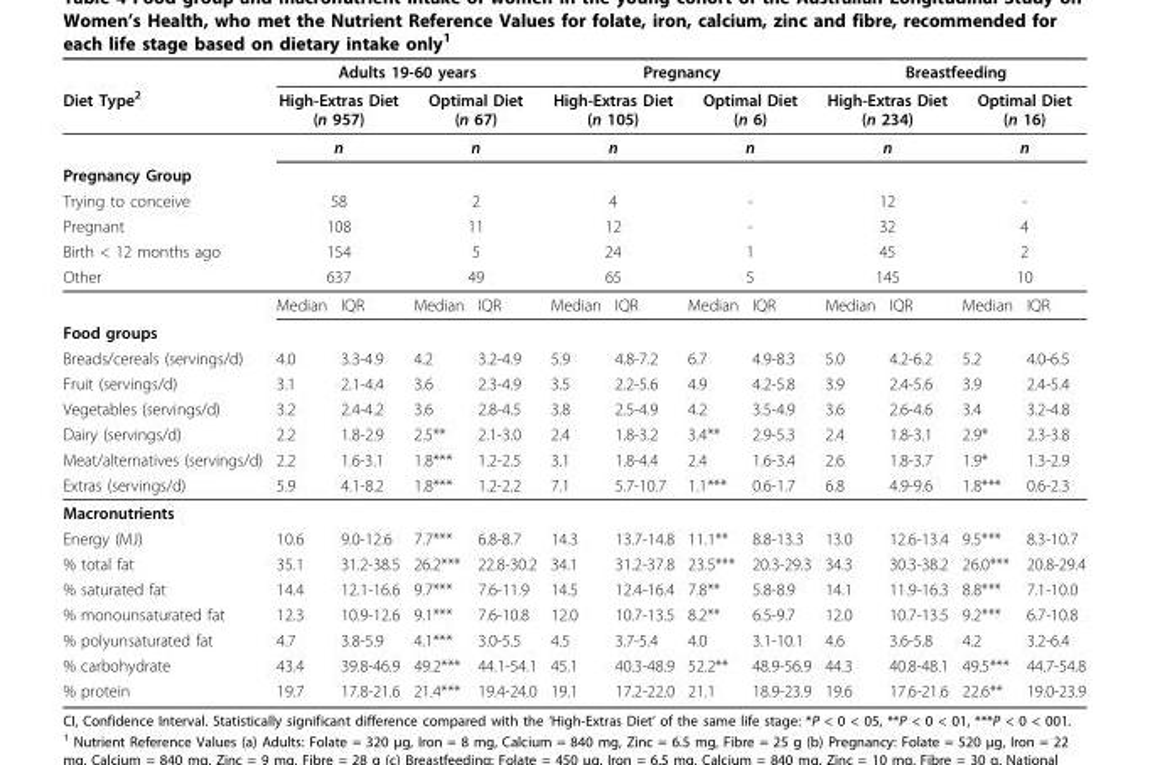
<table><thead><tr><td rowspan="4">Diet Type2 Pregnancy Group</td><td colspan="4">Adults 19-60 years</td><td colspan="4">Pregnancy</td><td colspan="4">Breastfeeding</td></tr><tr><td rowspan="2" colspan="2">High-Extras Diet (n 957) n</td><td rowspan="2" colspan="2">Optimal Diet (n 67) n</td><td rowspan="2" colspan="2">High-Extras Diet (n 105) n</td><td rowspan="2" colspan="2">Optimal Diet (n 6) n</td><td rowspan="2" colspan="2">High-Extras Diet (n 234) n</td><td rowspan="2" colspan="2">Optimal Diet (n 16) n</td></tr><tr></tr><tr><td></td><td></td><td></td><td></td><td></td><td></td><td></td><td></td><td></td><td></td><td></td><td></td></tr></thead><tbody><tr><td>Trying to conceive</td><td colspan="2">58</td><td colspan="2">2</td><td colspan="2">4</td><td colspan="2">-</td><td colspan="2">12</td><td colspan="2">-</td></tr><tr><td>Pregnant</td><td colspan="2">108</td><td colspan="2">11</td><td colspan="2">12</td><td colspan="2">-</td><td colspan="2">32</td><td colspan="2">4</td></tr><tr><td>Birth &lt; 12 months ago</td><td colspan="2">154</td><td colspan="2">5</td><td colspan="2">24</td><td colspan="2">1</td><td colspan="2">45</td><td colspan="2">2</td></tr><tr><td rowspan="2">Other</td><td colspan="2">637</td><td colspan="2">49</td><td colspan="2">65</td><td colspan="2">5</td><td colspan="2">145</td><td colspan="2">10</td></tr><tr><td>Median</td><td>IQR</td><td>Median</td><td>IQR</td><td>Median</td><td>IQR</td><td>Median</td><td>IQR</td><td>Median</td><td>IQR</td><td>Median</td><td>IQR</td></tr><tr><td colspan="13">Food groups</td></tr><tr><td>Breads/cereals (servings/d)</td><td>4.0</td><td>3.3-4.9</td><td>4.2</td><td>3.2-4.9</td><td>5.9</td><td>4.8-7.2</td><td>6.7</td><td>4.9-8.3</td><td>5.0</td><td>4.2-6.2</td><td>5.2</td><td>4.0-6.5</td></tr><tr><td>Fruit (servings/d)</td><td>3.1</td><td>2.1-4.4</td><td>3.6</td><td>2.3-4.9</td><td>3.5</td><td>2.2-5.6</td><td>4.9</td><td>4.2-5.8</td><td>3.9</td><td>2.4-5.6</td><td>3.9</td><td>2.4-5.4</td></tr><tr><td>Vegetables (servings/d)</td><td>3.2</td><td>2.4-4.2</td><td>3.6</td><td>2.8-4.5</td><td>3.8</td><td>2.5-4.9</td><td>4.2</td><td>3.5-4.9</td><td>3.6</td><td>2.6-4.6</td><td>3.4</td><td>3.2-4.8</td></tr><tr><td>Dairy (servings/d)</td><td>2.2</td><td>1.8-2.9</td><td>2.5**</td><td>2.1-3.0</td><td>2.4</td><td>1.8-3.2</td><td>3.4**</td><td>2.9-5.3</td><td>2.4</td><td>1.8-3.1</td><td>2.9*</td><td>2.3-3.8</td></tr><tr><td>Meat/alternatives (servings/d)</td><td>2.2</td><td>1.6-3.1</td><td>1.8***</td><td>1.2-2.5</td><td>3.1</td><td>1.8-4.4</td><td>2.4</td><td>1.6-3.4</td><td>2.6</td><td>1.8-3.7</td><td>1.9*</td><td>1.3-2.9</td></tr><tr><td>Extras (servings/d)</td><td>5.9</td><td>4.1-8.2</td><td>1.8***</td><td>1.2-2.2</td><td>7.1</td><td>5.7-10.7</td><td>1.1***</td><td>0.6-1.7</td><td>6.8</td><td>4.9-9.6</td><td>1.8***</td><td>0.6-2.3</td></tr><tr><td colspan="13">Macronutrients</td></tr><tr><td>Energy (MJ)</td><td>10.6</td><td>9.0-12.6</td><td>7.7***</td><td>6.8-8.7</td><td>14.3</td><td>13.7-14.8</td><td>11.1**</td><td>8.8-13.3</td><td>13.0</td><td>12.6-13.4</td><td>9.5***</td><td>8.3-10.7</td></tr><tr><td>% total fat</td><td>35.1</td><td>31.2-38.5</td><td>26.2***</td><td>22.8-30.2</td><td>34.1</td><td>31.2-37.8</td><td>23.5***</td><td>20.3-29.3</td><td>34.3</td><td>30.3-38.2</td><td>26.0***</td><td>20.8-29.4</td></tr><tr><td>% saturated fat</td><td>14.4</td><td>12.1-16.6</td><td>9.7***</td><td>7.6-11.9</td><td>14.5</td><td>12.4-16.4</td><td>7.8**</td><td>5.8-8.9</td><td>14.1</td><td>11.9-16.3</td><td>8.8***</td><td>7.1-10.0</td></tr><tr><td>% monounsaturated fat</td><td>12.3</td><td>10.9-12.6</td><td>9.1***</td><td>7.6-10.8</td><td>12.0</td><td>10.7-13.5</td><td>8.2**</td><td>6.5-9.7</td><td>12.0</td><td>10.7-13.5</td><td>9.2***</td><td>6.7-10.8</td></tr><tr><td>% polyunsaturated fat</td><td>4.7</td><td>3.8-5.9</td><td>4.1***</td><td>3.0-5.5</td><td>4.5</td><td>3.7-5.4</td><td>4.0</td><td>3.1-10.1</td><td>4.6</td><td>3.6-5.8</td><td>4.2</td><td>3.2-6.4</td></tr><tr><td>% carbohydrate</td><td>43.4</td><td>39.8-46.9</td><td>49.2***</td><td>44.1-54.1</td><td>45.1</td><td>40.3-48.9</td><td>52.2**</td><td>48.9-56.9</td><td>44.3</td><td>40.8-48.1</td><td>49.5***</td><td>44.7-54.8</td></tr><tr><td>% protein</td><td>19.7</td><td>17.8-21.6</td><td>21.4***</td><td>19.4-24.0</td><td>19.1</td><td>17.2-22.0</td><td>21.1</td><td>18.9-23.9</td><td>19.6</td><td>17.6-21.6</td><td>22.6**</td><td>19.0-23.9</td></tr></tbody></table>